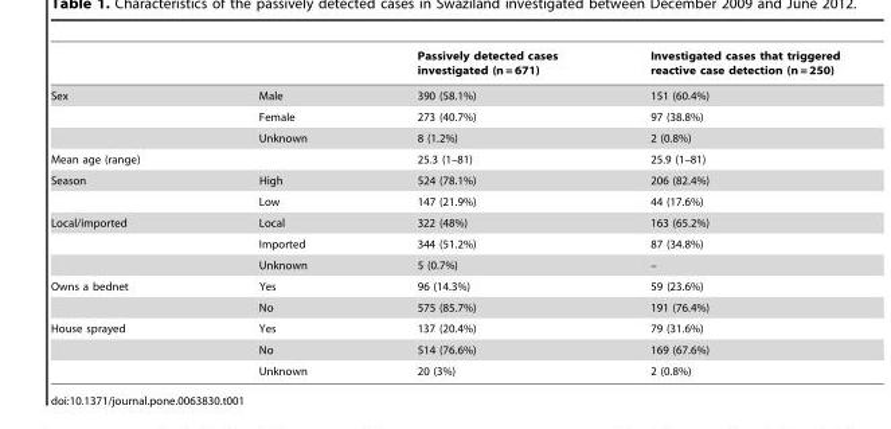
<table><thead><tr><td></td><td></td><td>Passively detected cases investigated (n = 671)</td><td>Investigated cases that triggered reactive case detection (n = 250)</td></tr></thead><tbody><tr><td rowspan="3">Sex</td><td>Male</td><td>390 (58.1%)</td><td>151 (60.4%)</td></tr><tr><td>Female</td><td>273 (40.7%)</td><td>97 (38.8%)</td></tr><tr><td>Unknown</td><td>8 (1.2%)</td><td>2 (0.8%)</td></tr><tr><td>Mean age (range)</td><td></td><td>25.3 (1–81)</td><td>25.9 (1–81)</td></tr><tr><td rowspan="2">Season</td><td>High</td><td>524 (78.1%)</td><td>206 (82.4%)</td></tr><tr><td>Low</td><td>147 (21.9%)</td><td>44 (17.6%)</td></tr><tr><td rowspan="3">Local/imported</td><td>Local</td><td>322 (48%)</td><td>163 (65.2%)</td></tr><tr><td>Imported</td><td>344 (51.2%)</td><td>87 (34.8%)</td></tr><tr><td>Unknown</td><td>5 (0.7%)</td><td>–</td></tr><tr><td rowspan="2">Owns a bednet</td><td>Yes</td><td>96 (14.3%)</td><td>59 (23.6%)</td></tr><tr><td>No</td><td>575 (85.7%)</td><td>191 (76.4%)</td></tr><tr><td rowspan="3">House sprayed</td><td>Yes</td><td>137 (20.4%)</td><td>79 (31.6%)</td></tr><tr><td>No</td><td>514 (76.6%)</td><td>169 (67.6%)</td></tr><tr><td>Unknown</td><td>20 (3%)</td><td>2 (0.8%)</td></tr></tbody></table>